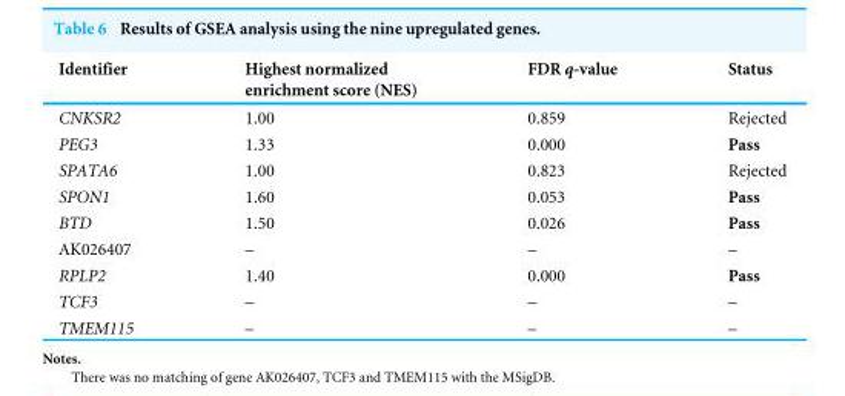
<table><thead><tr><td>Identifier</td><td>Highest normalized enrichment score (NES)</td><td>FDR q-value</td><td>Status</td></tr></thead><tbody><tr><td>CNKSR2</td><td>1.00</td><td>0.859</td><td>Rejected</td></tr><tr><td>PEG3</td><td>1.33</td><td>0.000</td><td>Pass</td></tr><tr><td>SPATA6</td><td>1.00</td><td>0.823</td><td>Rejected</td></tr><tr><td>SPON1</td><td>1.60</td><td>0.053</td><td>Pass</td></tr><tr><td>BTD</td><td>1.50</td><td>0.026</td><td>Pass</td></tr><tr><td>AK026407</td><td>–</td><td>–</td><td>–</td></tr><tr><td>RPLP2</td><td>1.40</td><td>0.000</td><td>Pass</td></tr><tr><td>TCF3</td><td>–</td><td>–</td><td>–</td></tr><tr><td>TMEM115</td><td>–</td><td>–</td><td>–</td></tr></tbody></table>